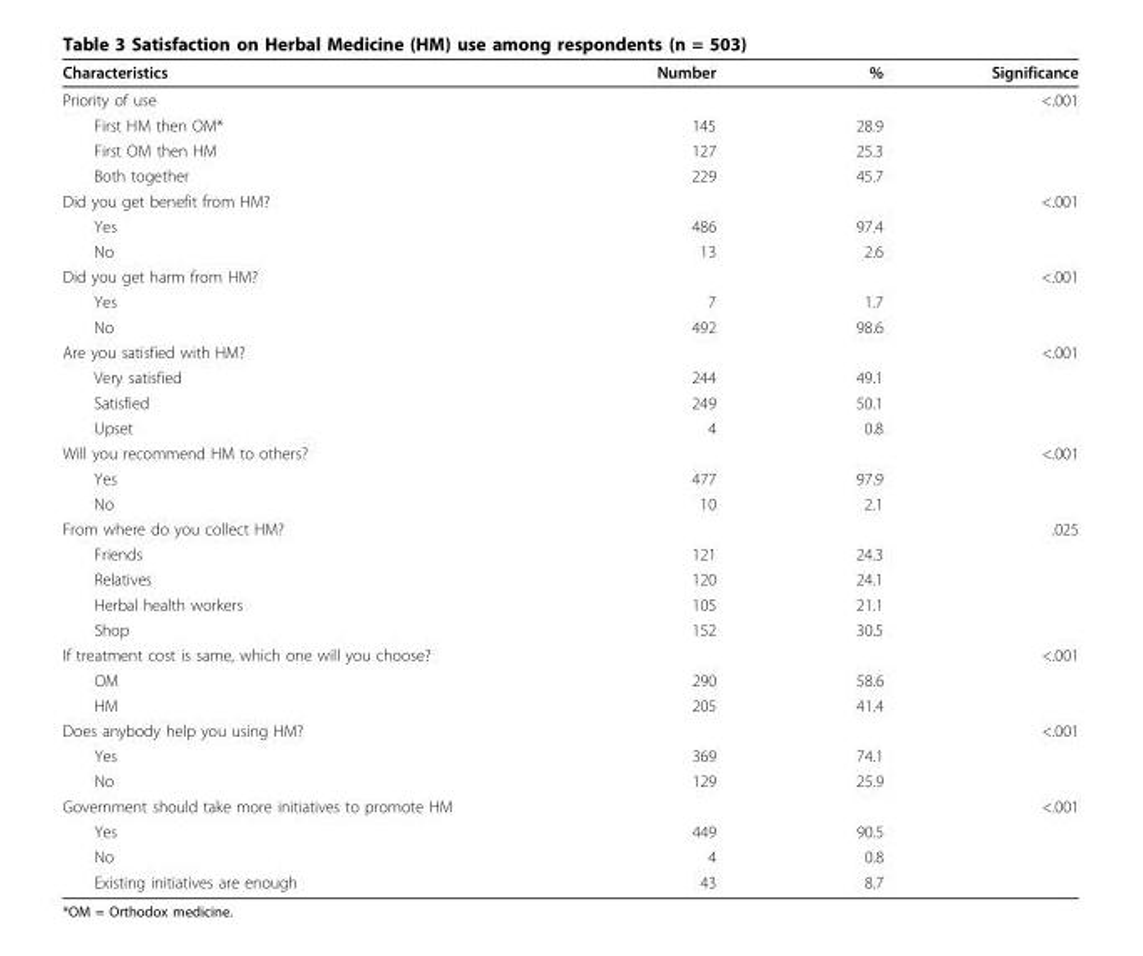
<table><thead><tr><td>Characteristics</td><td>Number</td><td>%</td><td>Significance</td></tr></thead><tbody><tr><td>Priority of use</td><td></td><td></td><td>&lt;.001</td></tr><tr><td>First HM then OM*</td><td>145</td><td>28.9</td><td></td></tr><tr><td>First OM then HM</td><td>127</td><td>25.3</td><td></td></tr><tr><td>Both together</td><td>229</td><td>45.7</td><td></td></tr><tr><td>Did you get benefit from HM?</td><td></td><td></td><td>&lt;.001</td></tr><tr><td>Yes</td><td>486</td><td>97.4</td><td></td></tr><tr><td>No</td><td>13</td><td>2.6</td><td></td></tr><tr><td>Did you get harm from HM?</td><td></td><td></td><td>&lt;.001</td></tr><tr><td>Yes</td><td>7</td><td>1.7</td><td></td></tr><tr><td>No</td><td>492</td><td>98.6</td><td></td></tr><tr><td>Are you satisfied with HM?</td><td></td><td></td><td>&lt;.001</td></tr><tr><td>Very satisfied</td><td>244</td><td>49.1</td><td></td></tr><tr><td>Satisfied</td><td>249</td><td>50.1</td><td></td></tr><tr><td>Upset</td><td>4</td><td>0.8</td><td></td></tr><tr><td>Will you recommend HM to others?</td><td></td><td></td><td>&lt;.001</td></tr><tr><td>Yes</td><td>477</td><td>97.9</td><td></td></tr><tr><td>No</td><td>10</td><td>2.1</td><td></td></tr><tr><td>From where do you collect HM?</td><td></td><td></td><td>.025</td></tr><tr><td>Friends</td><td>121</td><td>24.3</td><td></td></tr><tr><td>Relatives</td><td>120</td><td>24.1</td><td></td></tr><tr><td>Herbal health workers</td><td>105</td><td>21.1</td><td></td></tr><tr><td>Shop</td><td>152</td><td>30.5</td><td></td></tr><tr><td>If treatment cost is same, which one will you choose?</td><td></td><td></td><td>&lt;.001</td></tr><tr><td>OM</td><td>290</td><td>58.6</td><td></td></tr><tr><td>HM</td><td>205</td><td>41.4</td><td></td></tr><tr><td>Does anybody help you using HM?</td><td></td><td></td><td>&lt;.001</td></tr><tr><td>Yes</td><td>369</td><td>74.1</td><td></td></tr><tr><td>No</td><td>129</td><td>25.9</td><td></td></tr><tr><td>Government should take more initiatives to promote HM</td><td></td><td></td><td>&lt;.001</td></tr><tr><td>Yes</td><td>449</td><td>90.5</td><td></td></tr><tr><td>No</td><td>4</td><td>0.8</td><td></td></tr><tr><td>Existing initiatives are enough</td><td>43</td><td>8.7</td><td></td></tr></tbody></table>